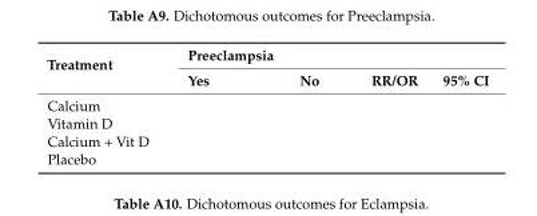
<table><thead><tr><td rowspan="2">Treatment</td><td colspan="4">Preeclampsia</td></tr><tr><td>Yes</td><td>No</td><td>RR/OR</td><td>95% CI</td></tr></thead><tbody><tr><td colspan="5">Calcium</td></tr><tr><td colspan="5">Vitamin D</td></tr><tr><td colspan="5">Calcium + Vit D</td></tr><tr><td>Placebo</td><td></td><td></td><td></td><td></td></tr></tbody></table>